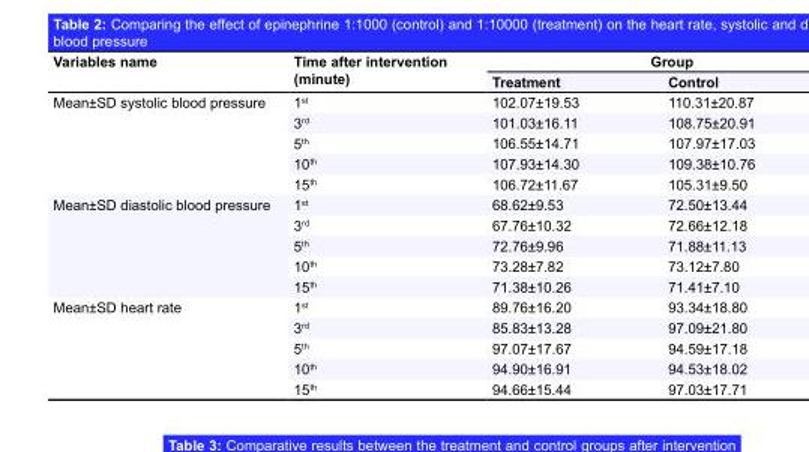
<table><thead><tr><td rowspan="2">Variables name</td><td rowspan="2">Time after intervention (minute)</td><td colspan="2">Group</td></tr><tr><td>Treatment</td><td>Control</td></tr></thead><tbody><tr><td rowspan="5">Mean±SD systolic blood pressure</td><td>1<sup>st</sup></td><td>102.07±19.53</td><td>110.31±20.87</td></tr><tr><td>3<sup>rd</sup></td><td>101.03±16.11</td><td>108.75±20.91</td></tr><tr><td>5<sup>th</sup></td><td>106.55±14.71</td><td>107.97±17.03</td></tr><tr><td>10<sup>th</sup></td><td>107.93±14.30</td><td>109.38±10.76</td></tr><tr><td>15<sup>th</sup></td><td>106.72±11.67</td><td>105.31±9.50</td></tr><tr><td rowspan="5">Mean±SD diastolic blood pressure</td><td>1<sup>st</sup></td><td>68.62±9.53</td><td>72.50±13.44</td></tr><tr><td>3<sup>rd</sup></td><td>67.76±10.32</td><td>72.66±12.18</td></tr><tr><td>5<sup>th</sup></td><td>72.76±9.96</td><td>71.88±11.13</td></tr><tr><td>10<sup>th</sup></td><td>73.28±7.82</td><td>73.12±7.80</td></tr><tr><td>15<sup>th</sup></td><td>71.38±10.26</td><td>71.41±7.10</td></tr><tr><td rowspan="5">Mean±SD heart rate</td><td>1<sup>st</sup></td><td>89.76±16.20</td><td>93.34±18.80</td></tr><tr><td>3<sup>rd</sup></td><td>85.83±13.28</td><td>97.09±21.80</td></tr><tr><td>5<sup>th</sup></td><td>97.07±17.67</td><td>94.59±17.18</td></tr><tr><td>10<sup>th</sup></td><td>94.90±16.91</td><td>94.53±18.02</td></tr><tr><td>15<sup>th</sup></td><td>94.66±15.44</td><td>97.03±17.71</td></tr></tbody></table>